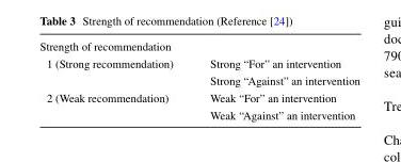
<table><tbody><tr><td colspan="2">Strength of recommendation</td></tr><tr><td rowspan="2">1 (Strong recommendation)</td><td>Strong “For” an intervention</td></tr><tr><td>Strong “Against” an intervention</td></tr><tr><td rowspan="2">2 (Weak recommendation)</td><td>Weak “For” an intervention</td></tr><tr><td>Weak “Against” an intervention</td></tr></tbody></table>